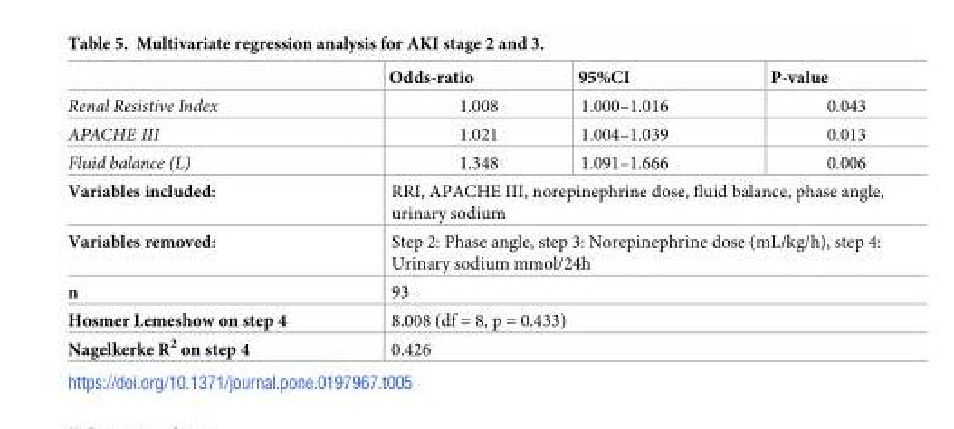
<table><thead><tr><td></td><td>Odds-ratio</td><td>95%CI</td><td>P-value</td></tr></thead><tbody><tr><td>Renal Resistive Index</td><td>1.008</td><td>1.000–1.016</td><td>0.043</td></tr><tr><td>APACHE III</td><td>1.021</td><td>1.004–1.039</td><td>0.013</td></tr><tr><td>Fluid balance (L)</td><td>1.348</td><td>1.091–1.666</td><td>0.006</td></tr><tr><td>Variables included:</td><td colspan="3">RRI, APACHE III, norepinephrine dose, fluid balance, phase angle, urinary sodium</td></tr><tr><td>Variables removed:</td><td colspan="3">Step 2: Phase angle, step 3: Norepinephrine dose (mL/kg/h), step 4: Urinary sodium mmol/24h</td></tr><tr><td>n</td><td colspan="3">93</td></tr><tr><td>Hosmer Lemeshow on step 4</td><td colspan="3">8.008 (df = 8, p = 0.433)</td></tr><tr><td>Nagelkerke R<sup>2</sup> on step 4</td><td colspan="3">0.426</td></tr></tbody></table>